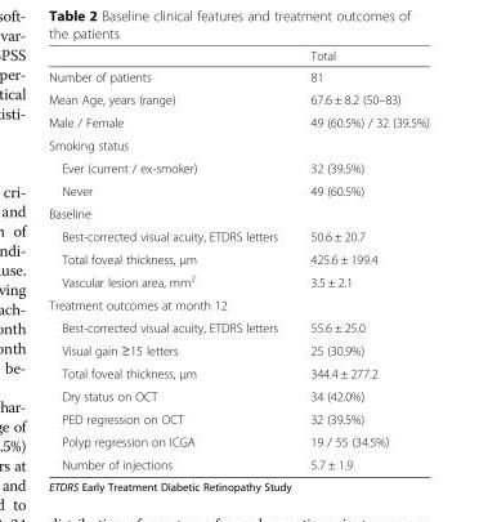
<table><thead><tr><td></td><td>Total</td></tr></thead><tbody><tr><td>Number of patients</td><td>81</td></tr><tr><td>Mean Age, years (range)</td><td>67.6 ± 8.2 (50–83)</td></tr><tr><td>Male / Female</td><td>49 (60.5%) / 32 (39.5%)</td></tr><tr><td colspan="2">Smoking status</td></tr><tr><td>Ever (current / ex-smoker)</td><td>32 (39.5%)</td></tr><tr><td>Never</td><td>49 (60.5%)</td></tr><tr><td colspan="2">Baseline</td></tr><tr><td>Best-corrected visual acuity, ETDRS letters</td><td>50.6 ± 20.7</td></tr><tr><td>Total foveal thickness, μm</td><td>425.6 ± 199.4</td></tr><tr><td>Vascular lesion area, mm<sup>2</sup></td><td>3.5 ± 2.1</td></tr><tr><td colspan="2">Treatment outcomes at month 12</td></tr><tr><td>Best-corrected visual acuity, ETDRS letters</td><td>55.6 ± 25.0</td></tr><tr><td>Visual gain ≥15 letters</td><td>25 (30.9%)</td></tr><tr><td>Total foveal thickness, μm</td><td>344.4 ± 277.2</td></tr><tr><td>Dry status on OCT</td><td>34 (42.0%)</td></tr><tr><td>PED regression on OCT</td><td>32 (39.5%)</td></tr><tr><td>Polyp regression on ICGA</td><td>19 / 55 (34.5%)</td></tr><tr><td>Number of injections</td><td>5.7 ± 1.9</td></tr></tbody></table>